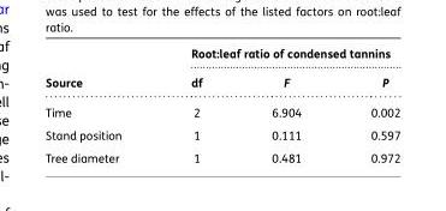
<table><thead><tr><td rowspan="2">Source</td><td colspan="3">Root:leaf ratio of condensed tannins</td></tr><tr><td>df</td><td>F</td><td>P</td></tr></thead><tbody><tr><td>Time</td><td>2</td><td>6.904</td><td>0.002</td></tr><tr><td>Stand position</td><td>1</td><td>0.111</td><td>0.597</td></tr><tr><td>Tree diameter</td><td>1</td><td>0.481</td><td>0.972</td></tr></tbody></table>